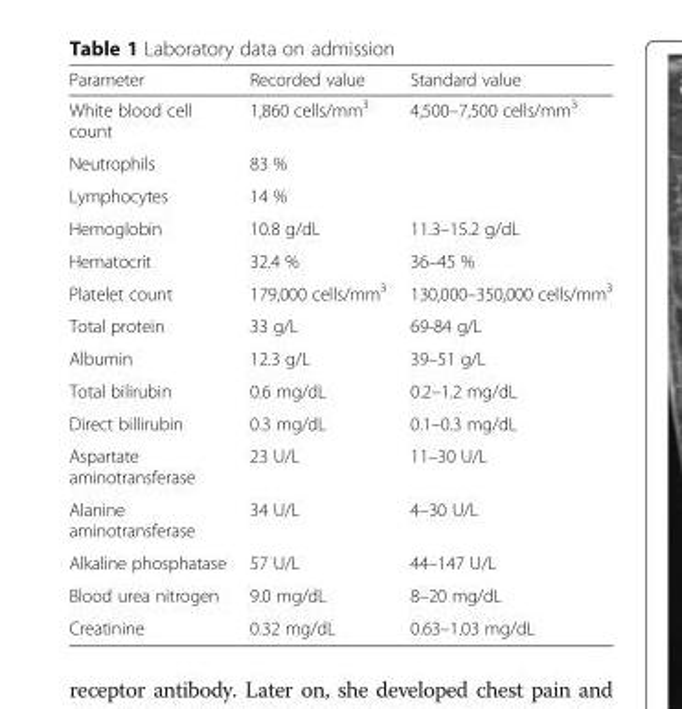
<table><thead><tr><td>Parameter</td><td>Recorded value</td><td>Standard value</td></tr></thead><tbody><tr><td>White blood cell count</td><td>1,860 cells/mm<sup>3</sup></td><td>4,500–7,500 cells/mm<sup>3</sup></td></tr><tr><td>Neutrophils</td><td>83 %</td><td></td></tr><tr><td>Lymphocytes</td><td>14 %</td><td></td></tr><tr><td>Hemoglobin</td><td>10.8 g/dL</td><td>11.3–15.2 g/dL</td></tr><tr><td>Hematocrit</td><td>32.4 %</td><td>36–45 %</td></tr><tr><td>Platelet count</td><td>179,000 cells/mm<sup>3</sup></td><td>130,000–350,000 cells/mm<sup>3</sup></td></tr><tr><td>Total protein</td><td>33 g/L</td><td>69-84 g/L</td></tr><tr><td>Albumin</td><td>12.3 g/L</td><td>39–51 g/L</td></tr><tr><td>Total bilirubin</td><td>0.6 mg/dL</td><td>0.2–1.2 mg/dL</td></tr><tr><td>Direct billirubin</td><td>0.3 mg/dL</td><td>0.1–0.3 mg/dL</td></tr><tr><td>Aspartate aminotransferase</td><td>23 U/L</td><td>11–30 U/L</td></tr><tr><td>Alanine aminotransferase</td><td>34 U/L</td><td>4–30 U/L</td></tr><tr><td>Alkaline phosphatase</td><td>57 U/L</td><td>44–147 U/L</td></tr><tr><td>Blood urea nitrogen</td><td>9.0 mg/dL</td><td>8–20 mg/dL</td></tr><tr><td>Creatinine</td><td>0.32 mg/dL</td><td>0.63–1.03 mg/dL</td></tr></tbody></table>